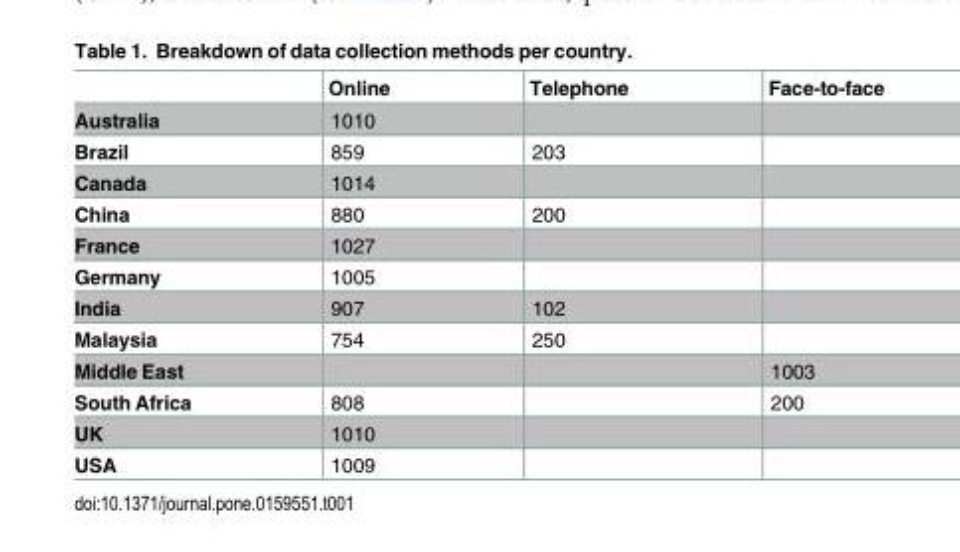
<table><thead><tr><td></td><td>Online</td><td>Telephone</td><td>Face-to-face</td></tr></thead><tbody><tr><td>Australia</td><td>1010</td><td></td><td></td></tr><tr><td>Brazil</td><td>859</td><td>203</td><td></td></tr><tr><td>Canada</td><td>1014</td><td></td><td></td></tr><tr><td>China</td><td>880</td><td>200</td><td></td></tr><tr><td>France</td><td>1027</td><td></td><td></td></tr><tr><td>Germany</td><td>1005</td><td></td><td></td></tr><tr><td>India</td><td>907</td><td>102</td><td></td></tr><tr><td>Malaysia</td><td>754</td><td>250</td><td></td></tr><tr><td>Middle East</td><td></td><td></td><td>1003</td></tr><tr><td>South Africa</td><td>808</td><td></td><td>200</td></tr><tr><td>UK</td><td>1010</td><td></td><td></td></tr><tr><td>USA</td><td>1009</td><td></td><td></td></tr></tbody></table>